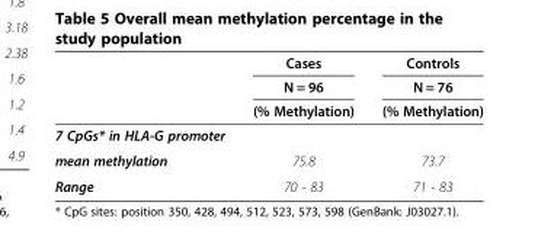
<table><thead><tr><td rowspan="3"></td><td rowspan="3">Cases N = 96 (% Methylation)</td><td rowspan="3">Controls N = 76 (% Methylation)</td></tr><tr></tr><tr></tr></thead><tbody><tr><td colspan="3">7 CpGs* in HLA-G promoter</td></tr><tr><td>mean methylation</td><td>75.8</td><td>73.7</td></tr><tr><td>Range</td><td>70 - 83</td><td>71 - 83</td></tr></tbody></table>